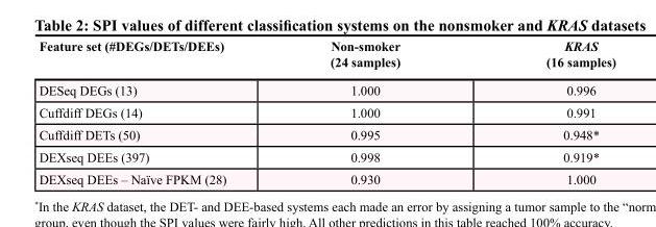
<table><thead><tr><td>Feature set (#DEGs/DETs/DEEs)</td><td>Non-smoker (24 samples)</td><td>KRAS (16 samples)</td></tr></thead><tbody><tr><td>DESeq DEGs (13)</td><td>1.000</td><td>0.996</td></tr><tr><td>Cuffdiff DEGs (14)</td><td>1.000</td><td>0.991</td></tr><tr><td>Cuffdiff DETs (50)</td><td>0.995</td><td>0.948*</td></tr><tr><td>DEXseq DEEs (397)</td><td>0.998</td><td>0.919*</td></tr><tr><td>DEXseq DEEs – Naïve FPKM (28)</td><td>0.930</td><td>1.000</td></tr></tbody></table>